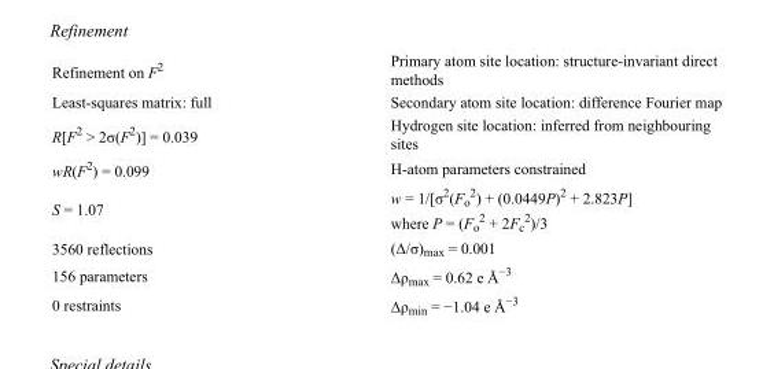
<table><tbody><tr><td>Refinement on F<sup>2</sup></td><td>Primary atom site location: structure-invariant direct methods</td></tr><tr><td>Least-squares matrix: full</td><td>Secondary atom site location: difference Fourier map</td></tr><tr><td>R[F<sup>2</sup> &gt; 2σ(F<sup>2</sup>)] = 0.039</td><td>Hydrogen site location: inferred from neighbouring sites</td></tr><tr><td>wR(F<sup>2</sup>) = 0.099</td><td>H-atom parameters constrained</td></tr><tr><td>S = 1.07</td><td>w = 1/[σ<sup>2</sup>(F<sub>o</sub> <sup>2</sup>) + (0.0449P)<sup>2</sup> + 2.823P] where P = (F<sub>o</sub> <sup>2</sup> + 2F<sub>c</sub> <sup>2</sup>)/3</td></tr><tr><td>3560 reflections</td><td>(Δ/σ)<sub>max</sub> = 0.001</td></tr><tr><td>156 parameters</td><td>Δρ<sub>max</sub> = 0.62 e Å<sup>−3</sup></td></tr><tr><td>0 restraints</td><td>Δρ<sub>min</sub> = −1.04 e Å<sup>−3</sup></td></tr></tbody></table>